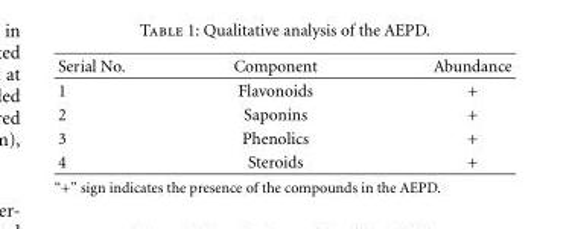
<table><thead><tr><td>Serial No.</td><td>Component</td><td>Abundance</td></tr></thead><tbody><tr><td>1</td><td>Flavonoids</td><td>+</td></tr><tr><td>2</td><td>Saponins</td><td>+</td></tr><tr><td>3</td><td>Phenolics</td><td>+</td></tr><tr><td>4</td><td>Steroids</td><td>+</td></tr></tbody></table>